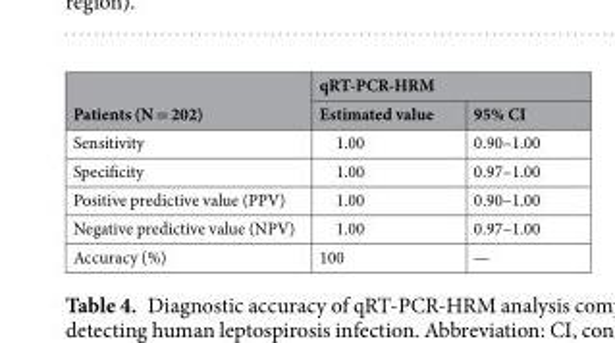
<table><thead><tr><td rowspan="2">Patients (N = 202)</td><td colspan="2">qRT-PCR-HRM</td></tr><tr><td>Estimated value</td><td>95% CI</td></tr></thead><tbody><tr><td>Sensitivity</td><td>1.00</td><td>0.90–1.00</td></tr><tr><td>Specificity</td><td>1.00</td><td>0.97–1.00</td></tr><tr><td>Positive predictive value (PPV)</td><td>1.00</td><td>0.90–1.00</td></tr><tr><td>Negative predictive value (NPV)</td><td>1.00</td><td>0.97–1.00</td></tr><tr><td>Accuracy (%)</td><td>100</td><td>—</td></tr></tbody></table>